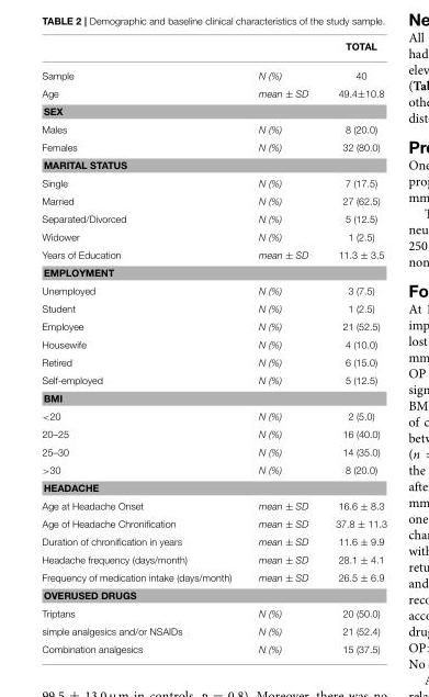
<table><thead><tr><td></td><td></td><td>TOTAL</td></tr></thead><tbody><tr><td>Sample</td><td>N (%)</td><td>40</td></tr><tr><td>Age</td><td>mean ± SD</td><td>49.4±10.8</td></tr><tr><td colspan="3">SEX</td></tr><tr><td>Males</td><td>N (%)</td><td>8 (20.0)</td></tr><tr><td>Females</td><td>N (%)</td><td>32 (80.0)</td></tr><tr><td colspan="3">MARITAL STATUS</td></tr><tr><td>Single</td><td>N (%)</td><td>7 (17.5)</td></tr><tr><td>Married</td><td>N (%)</td><td>27 (62.5)</td></tr><tr><td>Separated/Divorced</td><td>N (%)</td><td>5 (12.5)</td></tr><tr><td>Widower</td><td>N (%)</td><td>1 (2.5)</td></tr><tr><td>Years of Education</td><td>mean ± SD</td><td>11.3 ± 3.5</td></tr><tr><td colspan="3">EMPLOYMENT</td></tr><tr><td>Unemployed</td><td>N (%)</td><td>3 (7.5)</td></tr><tr><td>Student</td><td>N (%)</td><td>1 (2.5)</td></tr><tr><td>Employee</td><td>N (%)</td><td>21 (52.5)</td></tr><tr><td>Housewife</td><td>N (%)</td><td>4 (10.0)</td></tr><tr><td>Retired</td><td>N (%)</td><td>6 (15.0)</td></tr><tr><td>Self-employed</td><td>N (%)</td><td>5 (12.5)</td></tr><tr><td colspan="3">BMI</td></tr><tr><td>&lt;20</td><td>N (%)</td><td>2 (5.0)</td></tr><tr><td>20–25</td><td>N (%)</td><td>16 (40.0)</td></tr><tr><td>25–30</td><td>N (%)</td><td>14 (35.0)</td></tr><tr><td>&gt;30</td><td>N (%)</td><td>8 (20.0)</td></tr><tr><td colspan="3">HEADACHE</td></tr><tr><td>Age at Headache Onset</td><td>mean ± SD</td><td>16.6 ± 8.3</td></tr><tr><td>Age of Headache Chronification</td><td>mean ± SD</td><td>37.8 ± 11.3</td></tr><tr><td>Duration of chronification in years</td><td>mean ± SD</td><td>11.6 ± 9.9</td></tr><tr><td>Headache frequency (days/month)</td><td>mean ± SD</td><td>28.1 ± 4.1</td></tr><tr><td>Frequency of medication intake (days/month)</td><td>mean ± SD</td><td>26.5 ± 6.9</td></tr><tr><td colspan="3">OVERUSED DRUGS</td></tr><tr><td>Triptans</td><td>N (%)</td><td>20 (50.0)</td></tr><tr><td>simple analgesics and/or NSAIDs</td><td>N (%)</td><td>21 (52.4)</td></tr><tr><td>Combination analgesics</td><td>N (%)</td><td>15 (37.5)</td></tr></tbody></table>